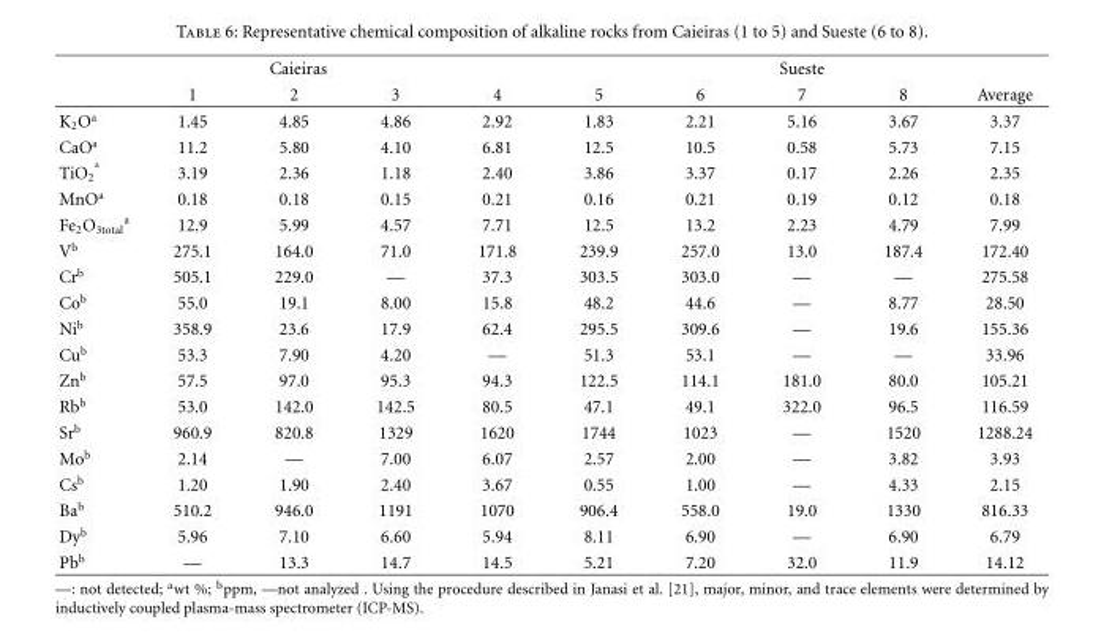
<table><thead><tr><td colspan="5">Caieiras</td><td colspan="5">Sueste</td></tr><tr><td></td><td>1</td><td>2</td><td>3</td><td>4</td><td>5</td><td>6</td><td>7</td><td>8</td><td>Average</td></tr></thead><tbody><tr><td>K<sub>2</sub>O<sup>a</sup></td><td>1.45</td><td>4.85</td><td>4.86</td><td>2.92</td><td>1.83</td><td>2.21</td><td>5.16</td><td>3.67</td><td>3.37</td></tr><tr><td>CaO<sup>a</sup></td><td>11.2</td><td>5.80</td><td>4.10</td><td>6.81</td><td>12.5</td><td>10.5</td><td>0.58</td><td>5.73</td><td>7.15</td></tr><tr><td>TiO2 a</td><td>3.19</td><td>2.36</td><td>1.18</td><td>2.40</td><td>3.86</td><td>3.37</td><td>0.17</td><td>2.26</td><td>2.35</td></tr><tr><td>MnO<sup>a</sup></td><td>0.18</td><td>0.18</td><td>0.15</td><td>0.21</td><td>0.16</td><td>0.21</td><td>0.19</td><td>0.12</td><td>0.18</td></tr><tr><td>Fe<sub>2</sub>O<sub>3total</sub> <sup>a</sup></td><td>12.9</td><td>5.99</td><td>4.57</td><td>7.71</td><td>12.5</td><td>13.2</td><td>2.23</td><td>4.79</td><td>7.99</td></tr><tr><td>V<sup>b</sup></td><td>275.1</td><td>164.0</td><td>71.0</td><td>171.8</td><td>239.9</td><td>257.0</td><td>13.0</td><td>187.4</td><td>172.40</td></tr><tr><td>Cr<sup>b</sup></td><td>505.1</td><td>229.0</td><td>—</td><td>37.3</td><td>303.5</td><td>303.0</td><td>—</td><td>—</td><td>275.58</td></tr><tr><td>Co<sup>b</sup></td><td>55.0</td><td>19.1</td><td>8.00</td><td>15.8</td><td>48.2</td><td>44.6</td><td>—</td><td>8.77</td><td>28.50</td></tr><tr><td>Ni<sup>b</sup></td><td>358.9</td><td>23.6</td><td>17.9</td><td>62.4</td><td>295.5</td><td>309.6</td><td>—</td><td>19.6</td><td>155.36</td></tr><tr><td>Cu<sup>b</sup></td><td>53.3</td><td>7.90</td><td>4.20</td><td>—</td><td>51.3</td><td>53.1</td><td>—</td><td>—</td><td>33.96</td></tr><tr><td>Zn<sup>b</sup></td><td>57.5</td><td>97.0</td><td>95.3</td><td>94.3</td><td>122.5</td><td>114.1</td><td>181.0</td><td>80.0</td><td>105.21</td></tr><tr><td>Rb<sup>b</sup></td><td>53.0</td><td>142.0</td><td>142.5</td><td>80.5</td><td>47.1</td><td>49.1</td><td>322.0</td><td>96.5</td><td>116.59</td></tr><tr><td>Sr<sup>b</sup></td><td>960.9</td><td>820.8</td><td>1329</td><td>1620</td><td>1744</td><td>1023</td><td>—</td><td>1520</td><td>1288.24</td></tr><tr><td>Mo<sup>b</sup></td><td>2.14</td><td>—</td><td>7.00</td><td>6.07</td><td>2.57</td><td>2.00</td><td>—</td><td>3.82</td><td>3.93</td></tr><tr><td>Cs<sup>b</sup></td><td>1.20</td><td>1.90</td><td>2.40</td><td>3.67</td><td>0.55</td><td>1.00</td><td>—</td><td>4.33</td><td>2.15</td></tr><tr><td>Ba<sup>b</sup></td><td>510.2</td><td>946.0</td><td>1191</td><td>1070</td><td>906.4</td><td>558.0</td><td>19.0</td><td>1330</td><td>816.33</td></tr><tr><td>Dy<sup>b</sup></td><td>5.96</td><td>7.10</td><td>6.60</td><td>5.94</td><td>8.11</td><td>6.90</td><td>—</td><td>6.90</td><td>6.79</td></tr><tr><td>Pb<sup>b</sup></td><td>—</td><td>13.3</td><td>14.7</td><td>14.5</td><td>5.21</td><td>7.20</td><td>32.0</td><td>11.9</td><td>14.12</td></tr></tbody></table>